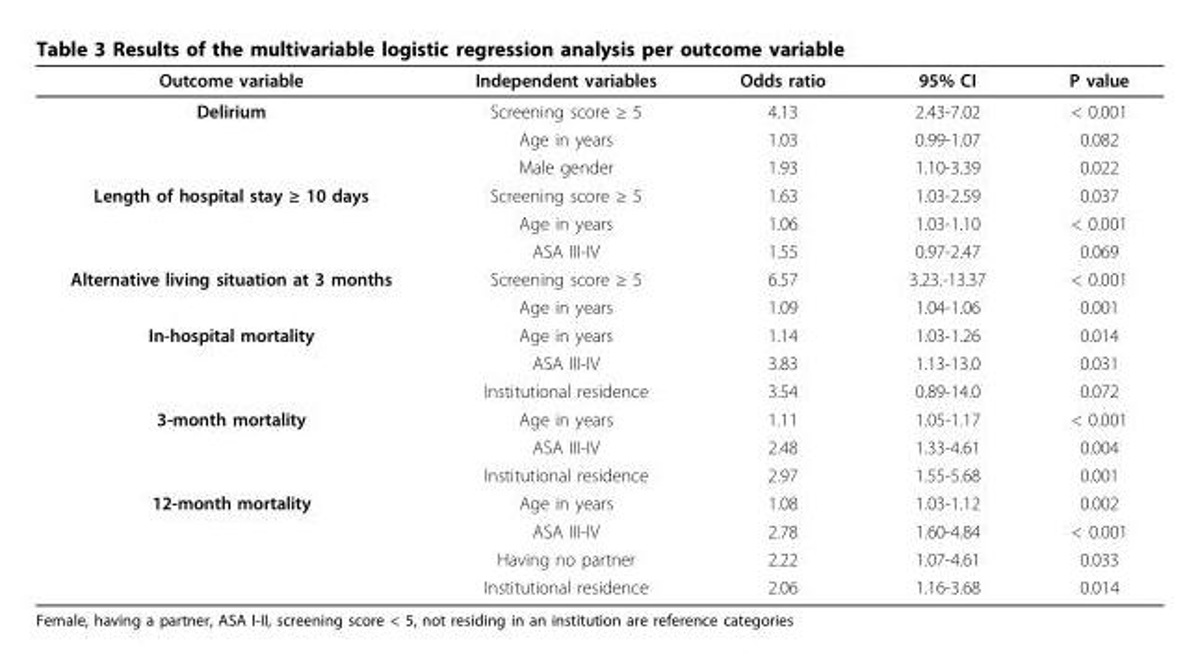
<table><thead><tr><td>Outcome variable</td><td>Independent variables</td><td>Odds ratio</td><td>95% CI</td><td>P value</td></tr></thead><tbody><tr><td rowspan="3">Delirium</td><td>Screening score ≥ 5</td><td>4.13</td><td>2.43-7.02</td><td>&lt; 0.001</td></tr><tr><td>Age in years</td><td>1.03</td><td>0.99-1.07</td><td>0.082</td></tr><tr><td>Male gender</td><td>1.93</td><td>1.10-3.39</td><td>0.022</td></tr><tr><td rowspan="3">Length of hospital stay ≥ 10 days</td><td>Screening score ≥ 5</td><td>1.63</td><td>1.03-2.59</td><td>0.037</td></tr><tr><td>Age in years</td><td>1.06</td><td>1.03-1.10</td><td>&lt; 0.001</td></tr><tr><td>ASA III-IV</td><td>1.55</td><td>0.97-2.47</td><td>0.069</td></tr><tr><td rowspan="2">Alternative living situation at 3 months</td><td>Screening score ≥ 5</td><td>6.57</td><td>3.23.-13.37</td><td>&lt; 0.001</td></tr><tr><td>Age in years</td><td>1.09</td><td>1.04-1.06</td><td>0.001</td></tr><tr><td rowspan="3">In-hospital mortality</td><td>Age in years</td><td>1.14</td><td>1.03-1.26</td><td>0.014</td></tr><tr><td>ASA III-IV</td><td>3.83</td><td>1.13-13.0</td><td>0.031</td></tr><tr><td>Institutional residence</td><td>3.54</td><td>0.89-14.0</td><td>0.072</td></tr><tr><td rowspan="3">3-month mortality</td><td>Age in years</td><td>1.11</td><td>1.05-1.17</td><td>&lt; 0.001</td></tr><tr><td>ASA III-IV</td><td>2.48</td><td>1.33-4.61</td><td>0.004</td></tr><tr><td>Institutional residence</td><td>2.97</td><td>1.55-5.68</td><td>0.001</td></tr><tr><td rowspan="4">12-month mortality</td><td>Age in years</td><td>1.08</td><td>1.03-1.12</td><td>0.002</td></tr><tr><td>ASA III-IV</td><td>2.78</td><td>1.60-4.84</td><td>&lt; 0.001</td></tr><tr><td>Having no partner</td><td>2.22</td><td>1.07-4.61</td><td>0.033</td></tr><tr><td>Institutional residence</td><td>2.06</td><td>1.16-3.68</td><td>0.014</td></tr></tbody></table>